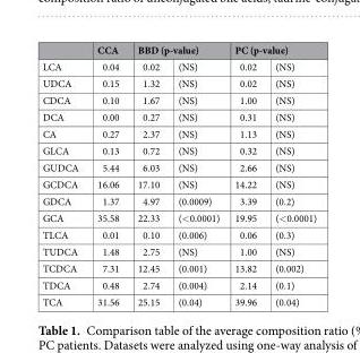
<table><thead><tr><td rowspan="2">LCA</td><td rowspan="2">CCA 0.04</td><td colspan="2">BBD (p-value)</td><td colspan="2">PC (p-value)</td></tr><tr><td>0.02</td><td>(NS)</td><td>0.02</td><td>(NS)</td></tr></thead><tbody><tr><td>UDCA</td><td>0.15</td><td>1.32</td><td>(NS)</td><td>0.02</td><td>(NS)</td></tr><tr><td>CDCA</td><td>0.10</td><td>1.67</td><td>(NS)</td><td>1.00</td><td>(NS)</td></tr><tr><td>DCA</td><td>0.00</td><td>0.27</td><td>(NS)</td><td>0.31</td><td>(NS)</td></tr><tr><td>CA</td><td>0.27</td><td>2.37</td><td>(NS)</td><td>1.13</td><td>(NS)</td></tr><tr><td>GLCA</td><td>0.13</td><td>0.72</td><td>(NS)</td><td>0.32</td><td>(NS)</td></tr><tr><td>GUDCA</td><td>5.44</td><td>6.03</td><td>(NS)</td><td>2.66</td><td>(NS)</td></tr><tr><td>GCDCA</td><td>16.06</td><td>17.10</td><td>(NS)</td><td>14.22</td><td>(NS)</td></tr><tr><td>GDCA</td><td>1.37</td><td>4.97</td><td>(0.0009)</td><td>3.39</td><td>(0.2)</td></tr><tr><td>GCA</td><td>35.58</td><td>22.33</td><td>(&lt;0.0001)</td><td>19.95</td><td>(&lt;0.0001)</td></tr><tr><td>TLCA</td><td>0.01</td><td>0.10</td><td>(0.006)</td><td>0.06</td><td>(0.3)</td></tr><tr><td>TUDCA</td><td>1.48</td><td>2.75</td><td>(NS)</td><td>1.00</td><td>(NS)</td></tr><tr><td>TCDCA</td><td>7.31</td><td>12.45</td><td>(0.001)</td><td>13.82</td><td>(0.002)</td></tr><tr><td>TDCA</td><td>0.48</td><td>2.74</td><td>(0.004)</td><td>2.14</td><td>(0.1)</td></tr><tr><td>TCA</td><td>31.56</td><td>25.15</td><td>(0.04)</td><td>39.96</td><td>(0.04)</td></tr></tbody></table>